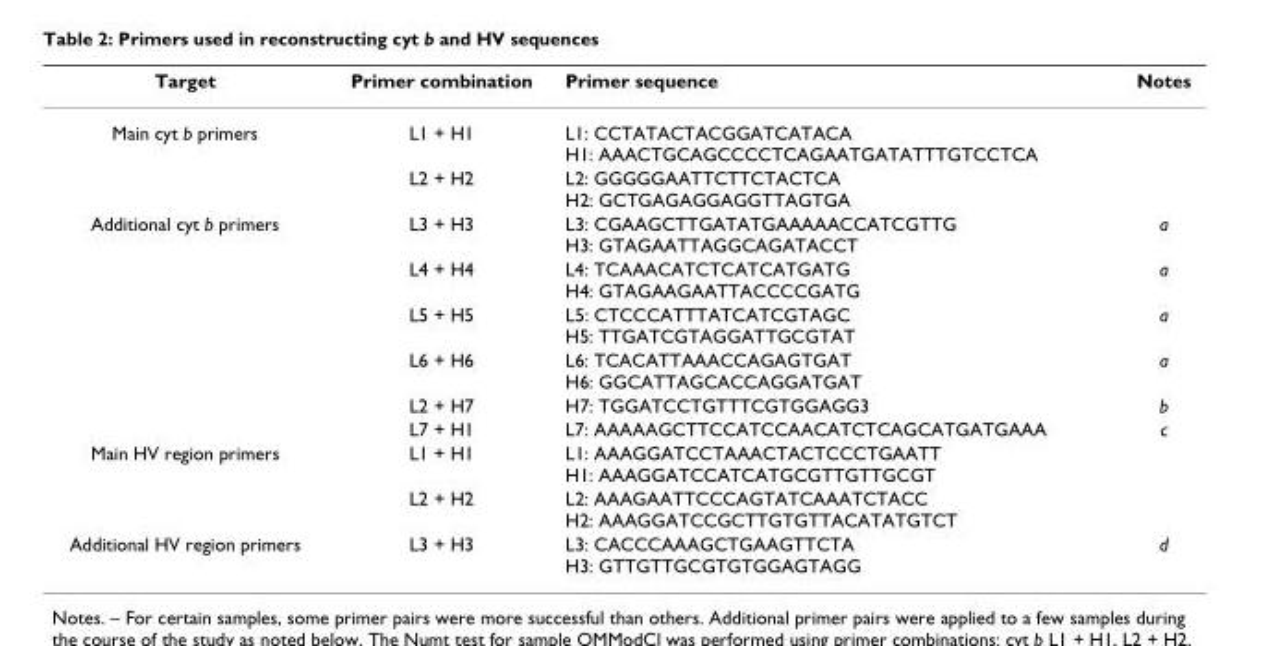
<table><thead><tr><td>Target</td><td>Primer combination</td><td>Primer sequence</td><td>Notes</td></tr></thead><tbody><tr><td rowspan="2">Main cyt b primers</td><td>L1 + H1</td><td>L1: CCTATACTACGGATCATACA H1: AAACTGCAGCCCCTCAGAATGATATTTGTCCTCA</td><td></td></tr><tr><td>L2 + H2</td><td>L2: GGGGGAATTCTTCTACTCA H2: GCTGAGAGGAGGTTAGTGA</td><td></td></tr><tr><td rowspan="6">Additional cyt b primers</td><td>L3 + H3</td><td>L3: CGAAGCTTGATATGAAAAACCATCGTTG H3: GTAGAATTAGGCAGATACCT</td><td>a</td></tr><tr><td>L4 + H4</td><td>L4: TCAAACATCTCATCATGATG H4: GTAGAAGAATTACCCCGATG</td><td>a</td></tr><tr><td>L5 + H5</td><td>L5: CTCCCATTTATCATCGTAGC H5: TTGATCGTAGGATTGCGTAT</td><td>a</td></tr><tr><td>L6 + H6</td><td>L6: TCACATTAAACCAGAGTGAT H6: GGCATTAGCACCAGGATGAT</td><td>a</td></tr><tr><td>L2 + H7</td><td>H7: TGGATCCTGTTTCGTGGAGG3</td><td>b</td></tr><tr><td>L7 + H1</td><td>L7: AAAAAGCTTCCATCCAACATCTCAGCATGATGAAA</td><td>c</td></tr><tr><td rowspan="2">Main HV region primers</td><td>L1 + H1</td><td>L1: AAAGGATCCTAAACTACTCCCTGAATT H1: AAAGGATCCATCATGCGTTGTTGCGT</td><td></td></tr><tr><td>L2 + H2</td><td>L2: AAAGAATTCCCAGTATCAAATCTACC H2: AAAGGATCCGCTTGTGTTACATATGTCT</td><td></td></tr><tr><td>Additional HV region primers</td><td>L3 + H3</td><td>L3: CACCCAAAGCTGAAGTTCTA H3: GTTGTTGCGTGTGGAGTAGG</td><td>d</td></tr></tbody></table>